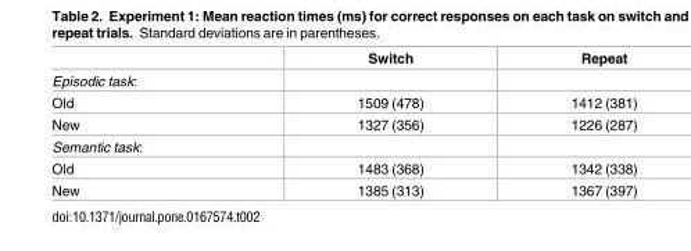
<table><thead><tr><td></td><td>Switch</td><td>Repeat</td></tr></thead><tbody><tr><td colspan="3">Episodic task:</td></tr><tr><td>Old</td><td>1509 (478)</td><td>1412 (381)</td></tr><tr><td>New</td><td>1327 (356)</td><td>1226 (287)</td></tr><tr><td colspan="3">Semantic task:</td></tr><tr><td>Old</td><td>1483 (368)</td><td>1342 (338)</td></tr><tr><td>New</td><td>1385 (313)</td><td>1367 (397)</td></tr></tbody></table>